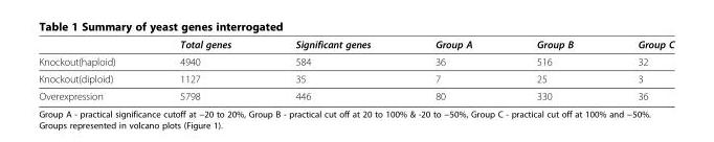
<table><thead><tr><td></td><td>Total genes</td><td>Significant genes</td><td>Group A</td><td>Group B</td><td>Group C</td></tr></thead><tbody><tr><td>Knockout(haploid)</td><td>4940</td><td>584</td><td>36</td><td>516</td><td>32</td></tr><tr><td>Knockout(diploid)</td><td>1127</td><td>35</td><td>7</td><td>25</td><td>3</td></tr><tr><td>Overexpression</td><td>5798</td><td>446</td><td>80</td><td>330</td><td>36</td></tr></tbody></table>